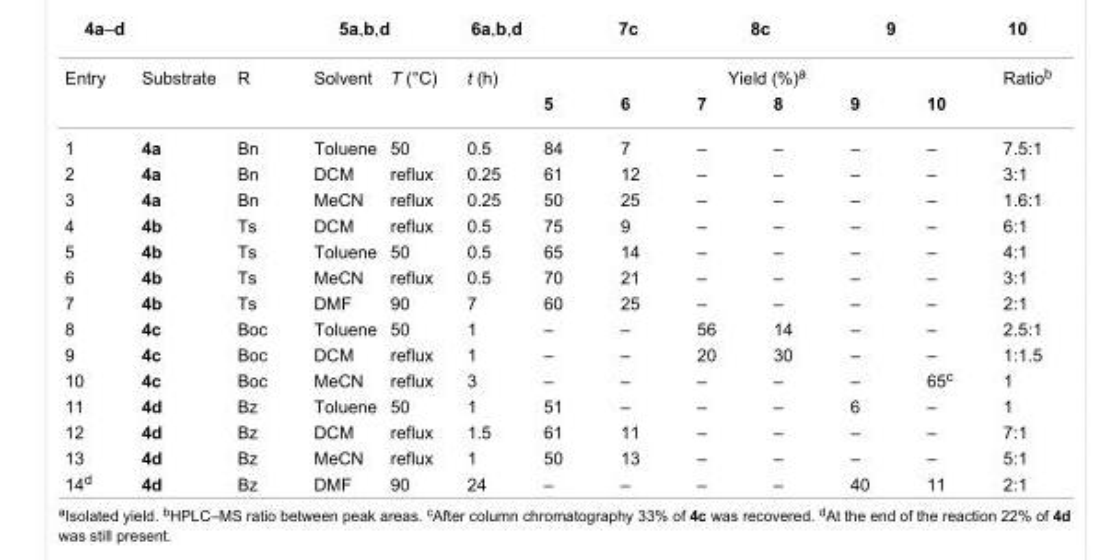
<table><tbody><tr><td rowspan="2">Entry</td><td rowspan="2">Substrate</td><td rowspan="2">R</td><td rowspan="2">Solvent</td><td rowspan="2">T (°C)</td><td rowspan="2">t (h)</td><td colspan="6">Yield (%)<sup>a</sup></td><td rowspan="2">Ratio<sup>b</sup></td></tr><tr><td>5</td><td>6</td><td>7</td><td>8</td><td>9</td><td>10</td></tr><tr><td>1</td><td>4a</td><td>Bn</td><td>Toluene</td><td>50</td><td>0.5</td><td>84</td><td>7</td><td>–</td><td>–</td><td>–</td><td>–</td><td>7.5:1</td></tr><tr><td>2</td><td>4a</td><td>Bn</td><td>DCM</td><td>reflux</td><td>0.25</td><td>61</td><td>12</td><td>–</td><td>–</td><td>–</td><td>–</td><td>3:1</td></tr><tr><td>3</td><td>4a</td><td>Bn</td><td>MeCN</td><td>reflux</td><td>0.25</td><td>50</td><td>25</td><td>–</td><td>–</td><td>–</td><td>–</td><td>1.6:1</td></tr><tr><td>4</td><td>4b</td><td>Ts</td><td>DCM</td><td>reflux</td><td>0.5</td><td>75</td><td>9</td><td>–</td><td>–</td><td>–</td><td>–</td><td>6:1</td></tr><tr><td>5</td><td>4b</td><td>Ts</td><td>Toluene</td><td>50</td><td>0.5</td><td>65</td><td>14</td><td>–</td><td>–</td><td>–</td><td>–</td><td>4:1</td></tr><tr><td>6</td><td>4b</td><td>Ts</td><td>MeCN</td><td>reflux</td><td>0.5</td><td>70</td><td>21</td><td>–</td><td>–</td><td>–</td><td>–</td><td>3:1</td></tr><tr><td>7</td><td>4b</td><td>Ts</td><td>DMF</td><td>90</td><td>7</td><td>60</td><td>25</td><td>–</td><td>–</td><td>–</td><td>–</td><td>2:1</td></tr><tr><td>8</td><td>4c</td><td>Boc</td><td>Toluene</td><td>50</td><td>1</td><td>–</td><td>–</td><td>56</td><td>14</td><td>–</td><td>–</td><td>2.5:1</td></tr><tr><td>9</td><td>4c</td><td>Boc</td><td>DCM</td><td>reflux</td><td>1</td><td>–</td><td>–</td><td>20</td><td>30</td><td>–</td><td>–</td><td>1:1.5</td></tr><tr><td>10</td><td>4c</td><td>Boc</td><td>MeCN</td><td>reflux</td><td>3</td><td>–</td><td>–</td><td>–</td><td>–</td><td>–</td><td>65<sup>c</sup></td><td>1</td></tr><tr><td>11</td><td>4d</td><td>Bz</td><td>Toluene</td><td>50</td><td>1</td><td>51</td><td>–</td><td>–</td><td>–</td><td>6</td><td>–</td><td>1</td></tr><tr><td>12</td><td>4d</td><td>Bz</td><td>DCM</td><td>reflux</td><td>1.5</td><td>61</td><td>11</td><td>–</td><td>–</td><td>–</td><td>–</td><td>7:1</td></tr><tr><td>13</td><td>4d</td><td>Bz</td><td>MeCN</td><td>reflux</td><td>1</td><td>50</td><td>13</td><td>–</td><td>–</td><td>–</td><td>–</td><td>5:1</td></tr><tr><td>14<sup>d</sup></td><td>4d</td><td>Bz</td><td>DMF</td><td>90</td><td>24</td><td>–</td><td>–</td><td>–</td><td>–</td><td>40</td><td>11</td><td>2:1</td></tr></tbody></table>